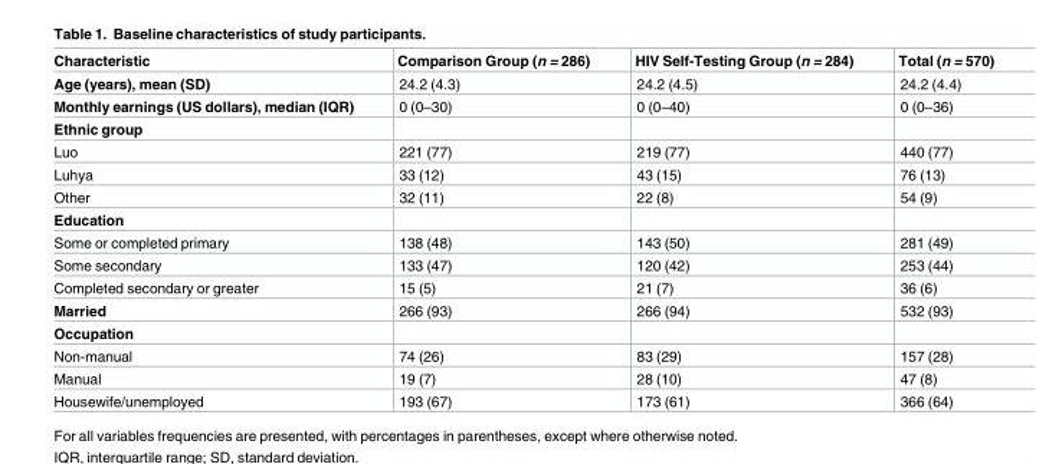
<table><thead><tr><td>Characteristic</td><td>Comparison Group (n = 286)</td><td>HIV Self-Testing Group (n = 284)</td><td>Total (n = 570)</td></tr></thead><tbody><tr><td>Age (years), mean (SD)</td><td>24.2 (4.3)</td><td>24.2 (4.5)</td><td>24.2 (4.4)</td></tr><tr><td>Monthly earnings (US dollars), median (IQR)</td><td>0 (0–30)</td><td>0 (0–40)</td><td>0 (0–36)</td></tr><tr><td colspan="4">Ethnic group</td></tr><tr><td>Luo</td><td>221 (77)</td><td>219 (77)</td><td>440 (77)</td></tr><tr><td>Luhya</td><td>33 (12)</td><td>43 (15)</td><td>76 (13)</td></tr><tr><td>Other</td><td>32 (11)</td><td>22 (8)</td><td>54 (9)</td></tr><tr><td colspan="4">Education</td></tr><tr><td>Some or completed primary</td><td>138 (48)</td><td>143 (50)</td><td>281 (49)</td></tr><tr><td>Some secondary</td><td>133 (47)</td><td>120 (42)</td><td>253 (44)</td></tr><tr><td>Completed secondary or greater</td><td>15 (5)</td><td>21 (7)</td><td>36 (6)</td></tr><tr><td>Married</td><td>266 (93)</td><td>266 (94)</td><td>532 (93)</td></tr><tr><td colspan="4">Occupation</td></tr><tr><td>Non-manual</td><td>74 (26)</td><td>83 (29)</td><td>157 (28)</td></tr><tr><td>Manual</td><td>19 (7)</td><td>28 (10)</td><td>47 (8)</td></tr><tr><td>Housewife/unemployed</td><td>193 (67)</td><td>173 (61)</td><td>366 (64)</td></tr></tbody></table>